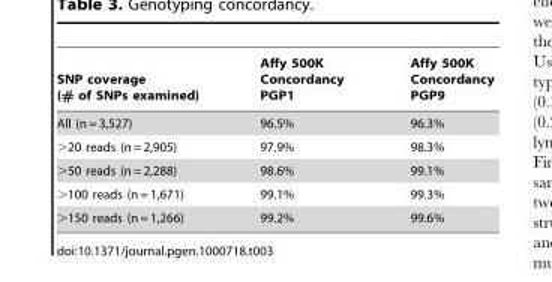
<table><thead><tr><td>SNP coverage (# of SNPs examined)</td><td>Affy 500K Concordancy PGP1</td><td>Affy 500K Concordancy PGP9</td></tr></thead><tbody><tr><td>All (n = 3,527)</td><td>96.5%</td><td>96.3%</td></tr><tr><td>&gt;20 reads (n = 2,905)</td><td>97.9%</td><td>98.3%</td></tr><tr><td>&gt;50 reads (n = 2,288)</td><td>98.6%</td><td>99.1%</td></tr><tr><td>&gt;100 reads (n = 1,671)</td><td>99.1%</td><td>99.3%</td></tr><tr><td>&gt;150 reads (n = 1,266)</td><td>99.2%</td><td>99.6%</td></tr></tbody></table>